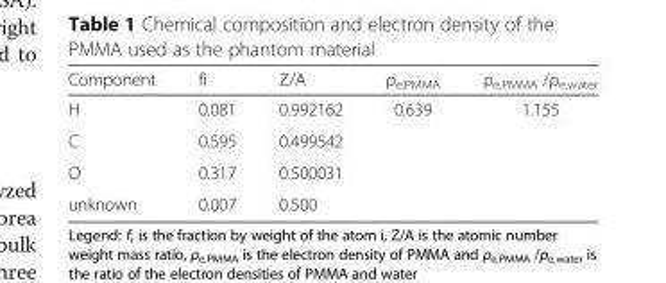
<table><thead><tr><td>Component</td><td>fi</td><td>Z/A</td><td>ρ<sub>e,PMMA</sub></td><td>ρ<sub>e,PMMA</sub> /ρ<sub>e,water</sub></td></tr></thead><tbody><tr><td>H</td><td>0.081</td><td>0.992162</td><td rowspan="4">0.639</td><td rowspan="4">1.155</td></tr><tr><td>C</td><td>0.595</td><td>0.499542</td></tr><tr><td>O</td><td>0.317</td><td>0.500031</td></tr><tr><td>unknown</td><td>0.007</td><td>0.500</td></tr></tbody></table>